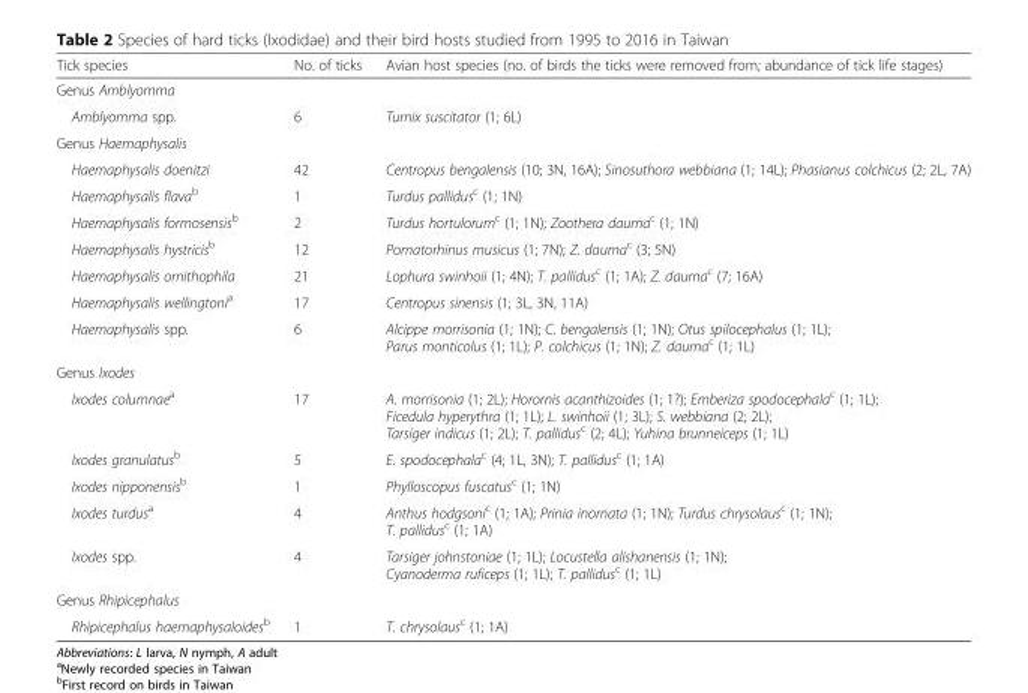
<table><thead><tr><td>Tick species</td><td>No. of ticks</td><td>Avian host species (no. of birds the ticks were removed from; abundance of tick life stages)</td></tr></thead><tbody><tr><td colspan="3">Genus Amblyomma</td></tr><tr><td>Amblyomma spp.</td><td>6</td><td>Turnix suscitator (1; 6L)</td></tr><tr><td colspan="3">Genus Haemaphysalis</td></tr><tr><td>Haemaphysalis doenitzi</td><td>42</td><td>Centropus bengalensis (10; 3N, 16A); Sinosuthora webbiana (1; 14L); Phasianus colchicus (2; 2L, 7A)</td></tr><tr><td>Haemaphysalis flava<sup>b</sup></td><td>1</td><td>Turdus pallidus<sup>c</sup> (1; 1N)</td></tr><tr><td>Haemaphysalis formosensis<sup>b</sup></td><td>2</td><td>Turdus hortulorum<sup>c</sup> (1; 1N); Zoothera dauma<sup>c</sup> (1; 1N)</td></tr><tr><td>Haemaphysalis hystricis<sup>b</sup></td><td>12</td><td>Pomatorhinus musicus (1; 7N); Z. dauma<sup>c</sup> (3; 5N)</td></tr><tr><td>Haemaphysalis ornithophila</td><td>21</td><td>Lophura swinhoii (1; 4N); T. pallidus<sup>c</sup> (1; 1A); Z. dauma<sup>c</sup> (7; 16A)</td></tr><tr><td>Haemaphysalis wellingtoni<sup>a</sup></td><td>17</td><td>Centropus sinensis (1; 3L, 3N, 11A)</td></tr><tr><td>Haemaphysalis spp.</td><td>6</td><td>Alcippe morrisonia (1; 1N); C. bengalensis (1; 1N); Otus spilocephalus (1; 1L); Parus monticolus (1; 1L); P. colchicus (1; 1N); Z. dauma<sup>c</sup> (1; 1L)</td></tr><tr><td colspan="3">Genus Ixodes</td></tr><tr><td>Ixodes columnae<sup>a</sup></td><td>17</td><td>A. morrisonia (1; 2L); Horornis acanthizoides (1; 1?); Emberiza spodocephala<sup>c</sup> (1; 1L); Ficedula hyperythra (1; 1L); L. swinhoii (1; 3L); S. webbiana (2; 2L); Tarsiger indicus (1; 2L); T. pallidus<sup>c</sup> (2; 4L); Yuhina brunneiceps (1; 1L)</td></tr><tr><td>Ixodes granulatus<sup>b</sup></td><td>5</td><td>E. spodocephala<sup>c</sup> (4; 1L, 3N); T. pallidus<sup>c</sup> (1; 1A)</td></tr><tr><td>Ixodes nipponensis<sup>b</sup></td><td>1</td><td>Phylloscopus fuscatus<sup>c</sup> (1; 1N)</td></tr><tr><td>Ixodes turdus<sup>a</sup></td><td>4</td><td>Anthus hodgsoni<sup>c</sup> (1; 1A); Prinia inornata (1; 1N); Turdus chrysolaus<sup>c</sup> (1; 1N); T. pallidus<sup>c</sup> (1; 1A)</td></tr><tr><td>Ixodes spp.</td><td>4</td><td>Tarsiger johnstoniae (1; 1L); Locustella alishanensis (1; 1N); Cyanoderma ruficeps (1; 1L); T. pallidus<sup>c</sup> (1; 1L)</td></tr><tr><td colspan="3">Genus Rhipicephalus</td></tr><tr><td>Rhipicephalus haemaphysaloides<sup>b</sup></td><td>1</td><td>T. chrysolaus<sup>c</sup> (1; 1A)</td></tr></tbody></table>